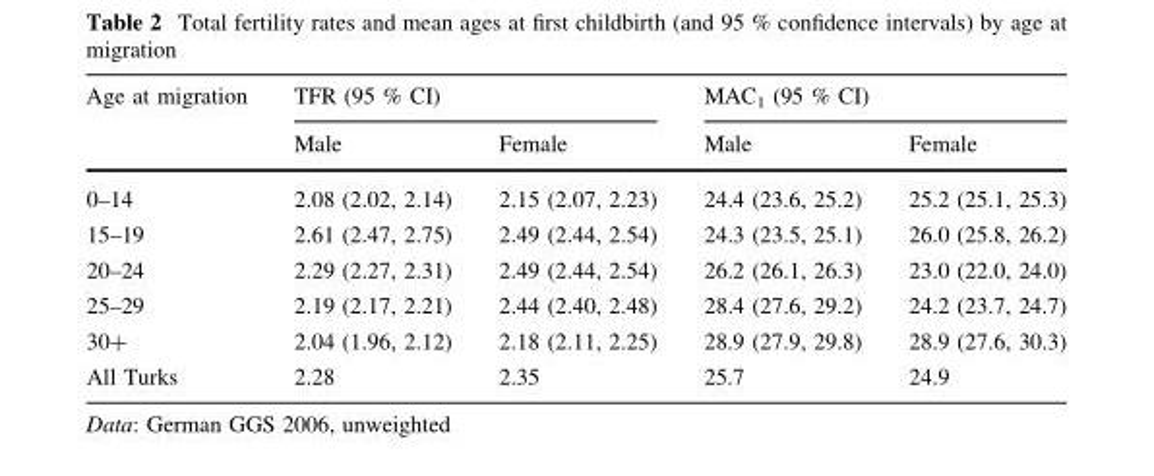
<table><thead><tr><td rowspan="2">Age at migration</td><td colspan="2">TFR (95 % CI)</td><td colspan="2">MAC<sub>1</sub> (95 % CI)</td></tr><tr><td>Male</td><td>Female</td><td>Male</td><td>Female</td></tr></thead><tbody><tr><td>0–14</td><td>2.08 (2.02, 2.14)</td><td>2.15 (2.07, 2.23)</td><td>24.4 (23.6, 25.2)</td><td>25.2 (25.1, 25.3)</td></tr><tr><td>15–19</td><td>2.61 (2.47, 2.75)</td><td>2.49 (2.44, 2.54)</td><td>24.3 (23.5, 25.1)</td><td>26.0 (25.8, 26.2)</td></tr><tr><td>20–24</td><td>2.29 (2.27, 2.31)</td><td>2.49 (2.44, 2.54)</td><td>26.2 (26.1, 26.3)</td><td>23.0 (22.0, 24.0)</td></tr><tr><td>25–29</td><td>2.19 (2.17, 2.21)</td><td>2.44 (2.40, 2.48)</td><td>28.4 (27.6, 29.2)</td><td>24.2 (23.7, 24.7)</td></tr><tr><td>30+</td><td>2.04 (1.96, 2.12)</td><td>2.18 (2.11, 2.25)</td><td>28.9 (27.9, 29.8)</td><td>28.9 (27.6, 30.3)</td></tr><tr><td>All Turks</td><td>2.28</td><td>2.35</td><td>25.7</td><td>24.9</td></tr></tbody></table>